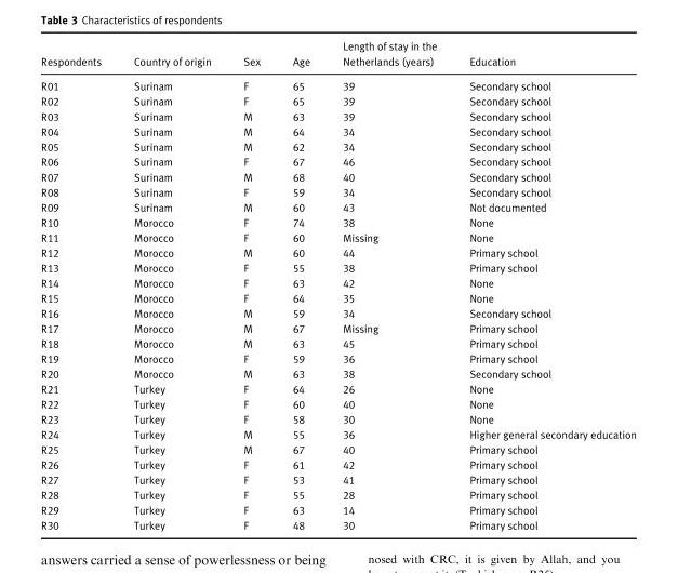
<table><thead><tr><td>Respondents</td><td>Country of origin</td><td>Sex</td><td>Age</td><td>Length of stay in the Netherlands (years)</td><td>Education</td></tr></thead><tbody><tr><td>R01</td><td>Surinam</td><td>F</td><td>65</td><td>39</td><td>Secondary school</td></tr><tr><td>R02</td><td>Surinam</td><td>F</td><td>65</td><td>39</td><td>Secondary school</td></tr><tr><td>R03</td><td>Surinam</td><td>M</td><td>63</td><td>39</td><td>Secondary school</td></tr><tr><td>R04</td><td>Surinam</td><td>M</td><td>64</td><td>34</td><td>Secondary school</td></tr><tr><td>R05</td><td>Surinam</td><td>M</td><td>62</td><td>34</td><td>Secondary school</td></tr><tr><td>R06</td><td>Surinam</td><td>F</td><td>67</td><td>46</td><td>Secondary school</td></tr><tr><td>R07</td><td>Surinam</td><td>M</td><td>68</td><td>40</td><td>Secondary school</td></tr><tr><td>R08</td><td>Surinam</td><td>F</td><td>59</td><td>34</td><td>Secondary school</td></tr><tr><td>R09</td><td>Surinam</td><td>M</td><td>60</td><td>43</td><td>Not documented</td></tr><tr><td>R10</td><td>Morocco</td><td>F</td><td>74</td><td>38</td><td>None</td></tr><tr><td>R11</td><td>Morocco</td><td>F</td><td>60</td><td>Missing</td><td>None</td></tr><tr><td>R12</td><td>Morocco</td><td>M</td><td>60</td><td>44</td><td>Primary school</td></tr><tr><td>R13</td><td>Morocco</td><td>F</td><td>55</td><td>38</td><td>Primary school</td></tr><tr><td>R14</td><td>Morocco</td><td>F</td><td>63</td><td>42</td><td>None</td></tr><tr><td>R15</td><td>Morocco</td><td>F</td><td>64</td><td>35</td><td>None</td></tr><tr><td>R16</td><td>Morocco</td><td>M</td><td>59</td><td>34</td><td>Secondary school</td></tr><tr><td>R17</td><td>Morocco</td><td>M</td><td>67</td><td>Missing</td><td>Primary school</td></tr><tr><td>R18</td><td>Morocco</td><td>M</td><td>63</td><td>45</td><td>Primary school</td></tr><tr><td>R19</td><td>Morocco</td><td>F</td><td>59</td><td>36</td><td>Primary school</td></tr><tr><td>R20</td><td>Morocco</td><td>M</td><td>63</td><td>38</td><td>Secondary school</td></tr><tr><td>R21</td><td>Turkey</td><td>F</td><td>64</td><td>26</td><td>None</td></tr><tr><td>R22</td><td>Turkey</td><td>F</td><td>60</td><td>40</td><td>None</td></tr><tr><td>R23</td><td>Turkey</td><td>F</td><td>58</td><td>30</td><td>None</td></tr><tr><td>R24</td><td>Turkey</td><td>M</td><td>55</td><td>36</td><td>Higher general secondary education</td></tr><tr><td>R25</td><td>Turkey</td><td>M</td><td>67</td><td>40</td><td>Primary school</td></tr><tr><td>R26</td><td>Turkey</td><td>F</td><td>61</td><td>42</td><td>Primary school</td></tr><tr><td>R27</td><td>Turkey</td><td>F</td><td>53</td><td>41</td><td>Primary school</td></tr><tr><td>R28</td><td>Turkey</td><td>F</td><td>55</td><td>28</td><td>Primary school</td></tr><tr><td>R29</td><td>Turkey</td><td>F</td><td>63</td><td>14</td><td>Primary school</td></tr><tr><td>R30</td><td>Turkey</td><td>F</td><td>48</td><td>30</td><td>Primary school</td></tr></tbody></table>